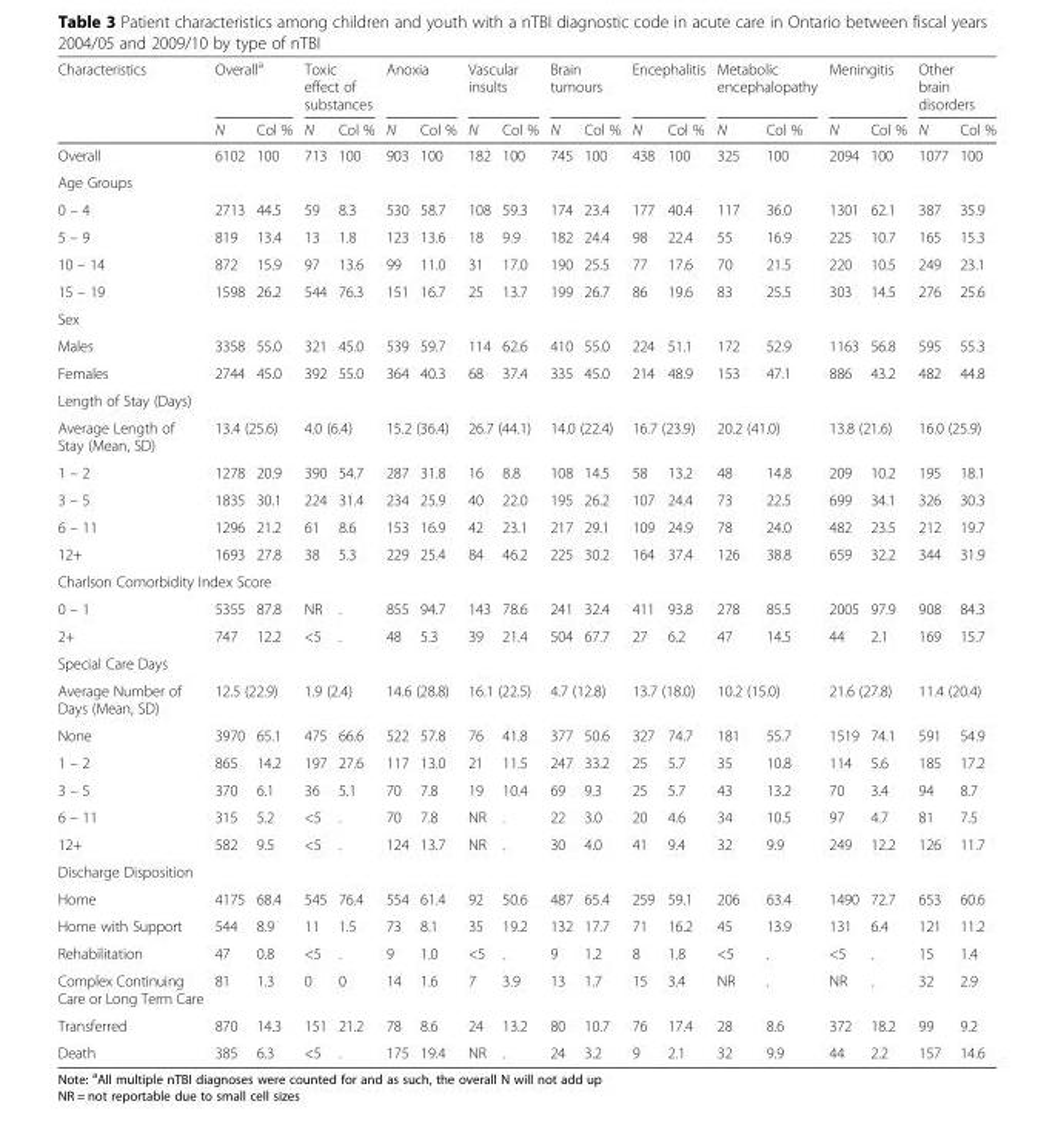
<table><thead><tr><td rowspan="2">Characteristics</td><td colspan="2">Overall<sup>a</sup></td><td colspan="2">Toxic effect of substances</td><td colspan="2">Anoxia</td><td colspan="2">Vascular insults</td><td colspan="2">Brain tumours</td><td colspan="2">Encephalitis</td><td colspan="2">Metabolic encephalopathy</td><td colspan="2">Meningitis</td><td colspan="2">Other brain disorders</td></tr><tr><td>N</td><td>Col %</td><td>N</td><td>Col %</td><td>N</td><td>Col %</td><td>N</td><td>Col %</td><td>N</td><td>Col %</td><td>N</td><td>Col %</td><td>N</td><td>Col %</td><td>N</td><td>Col %</td><td>N</td><td>Col %</td></tr></thead><tbody><tr><td>Overall</td><td>6102</td><td>100</td><td>713</td><td>100</td><td>903</td><td>100</td><td>182</td><td>100</td><td>745</td><td>100</td><td>438</td><td>100</td><td>325</td><td>100</td><td>2094</td><td>100</td><td>1077</td><td>100</td></tr><tr><td colspan="19">Age Groups</td></tr><tr><td>0 – 4</td><td>2713</td><td>44.5</td><td>59</td><td>8.3</td><td>530</td><td>58.7</td><td>108</td><td>59.3</td><td>174</td><td>23.4</td><td>177</td><td>40.4</td><td>117</td><td>36.0</td><td>1301</td><td>62.1</td><td>387</td><td>35.9</td></tr><tr><td>5 – 9</td><td>819</td><td>13.4</td><td>13</td><td>1.8</td><td>123</td><td>13.6</td><td>18</td><td>9.9</td><td>182</td><td>24.4</td><td>98</td><td>22.4</td><td>55</td><td>16.9</td><td>225</td><td>10.7</td><td>165</td><td>15.3</td></tr><tr><td>10 – 14</td><td>872</td><td>15.9</td><td>97</td><td>13.6</td><td>99</td><td>11.0</td><td>31</td><td>17.0</td><td>190</td><td>25.5</td><td>77</td><td>17.6</td><td>70</td><td>21.5</td><td>220</td><td>10.5</td><td>249</td><td>23.1</td></tr><tr><td>15 – 19</td><td>1598</td><td>26.2</td><td>544</td><td>76.3</td><td>151</td><td>16.7</td><td>25</td><td>13.7</td><td>199</td><td>26.7</td><td>86</td><td>19.6</td><td>83</td><td>25.5</td><td>303</td><td>14.5</td><td>276</td><td>25.6</td></tr><tr><td colspan="19">Sex</td></tr><tr><td>Males</td><td>3358</td><td>55.0</td><td>321</td><td>45.0</td><td>539</td><td>59.7</td><td>114</td><td>62.6</td><td>410</td><td>55.0</td><td>224</td><td>51.1</td><td>172</td><td>52.9</td><td>1163</td><td>56.8</td><td>595</td><td>55.3</td></tr><tr><td>Females</td><td>2744</td><td>45.0</td><td>392</td><td>55.0</td><td>364</td><td>40.3</td><td>68</td><td>37.4</td><td>335</td><td>45.0</td><td>214</td><td>48.9</td><td>153</td><td>47.1</td><td>886</td><td>43.2</td><td>482</td><td>44.8</td></tr><tr><td colspan="19">Length of Stay (Days)</td></tr><tr><td>Average Length of Stay (Mean, SD)</td><td colspan="2">13.4 (25.6)</td><td colspan="2">4.0 (6.4)</td><td colspan="2">15.2 (36.4)</td><td colspan="2">26.7 (44.1)</td><td colspan="2">14.0 (22.4)</td><td colspan="2">16.7 (23.9)</td><td colspan="2">20.2 (41.0)</td><td colspan="2">13.8 (21.6)</td><td colspan="2">16.0 (25.9)</td></tr><tr><td>1 – 2</td><td>1278</td><td>20.9</td><td>390</td><td>54.7</td><td>287</td><td>31.8</td><td>16</td><td>8.8</td><td>108</td><td>14.5</td><td>58</td><td>13.2</td><td>48</td><td>14.8</td><td>209</td><td>10.2</td><td>195</td><td>18.1</td></tr><tr><td>3 – 5</td><td>1835</td><td>30.1</td><td>224</td><td>31.4</td><td>234</td><td>25.9</td><td>40</td><td>22.0</td><td>195</td><td>26.2</td><td>107</td><td>24.4</td><td>73</td><td>22.5</td><td>699</td><td>34.1</td><td>326</td><td>30.3</td></tr><tr><td>6 – 11</td><td>1296</td><td>21.2</td><td>61</td><td>8.6</td><td>153</td><td>16.9</td><td>42</td><td>23.1</td><td>217</td><td>29.1</td><td>109</td><td>24.9</td><td>78</td><td>24.0</td><td>482</td><td>23.5</td><td>212</td><td>19.7</td></tr><tr><td>12+</td><td>1693</td><td>27.8</td><td>38</td><td>5.3</td><td>229</td><td>25.4</td><td>84</td><td>46.2</td><td>225</td><td>30.2</td><td>164</td><td>37.4</td><td>126</td><td>38.8</td><td>659</td><td>32.2</td><td>344</td><td>31.9</td></tr><tr><td colspan="19">Charlson Comorbidity Index Score</td></tr><tr><td>0 – 1</td><td>5355</td><td>87.8</td><td>NR</td><td>.</td><td>855</td><td>94.7</td><td>143</td><td>78.6</td><td>241</td><td>32.4</td><td>411</td><td>93.8</td><td>278</td><td>85.5</td><td>2005</td><td>97.9</td><td>908</td><td>84.3</td></tr><tr><td>2+</td><td>747</td><td>12.2</td><td>&lt;5</td><td>.</td><td>48</td><td>5.3</td><td>39</td><td>21.4</td><td>504</td><td>67.7</td><td>27</td><td>6.2</td><td>47</td><td>14.5</td><td>44</td><td>2.1</td><td>169</td><td>15.7</td></tr><tr><td colspan="19">Special Care Days</td></tr><tr><td>Average Number of Days (Mean, SD)</td><td colspan="2">12.5 (22.9)</td><td colspan="2">1.9 (2.4)</td><td colspan="2">14.6 (28.8)</td><td colspan="2">16.1 (22.5)</td><td colspan="2">4.7 (12.8)</td><td colspan="2">13.7 (18.0)</td><td colspan="2">10.2 (15.0)</td><td colspan="2">21.6 (27.8)</td><td colspan="2">11.4 (20.4)</td></tr><tr><td>None</td><td>3970</td><td>65.1</td><td>475</td><td>66.6</td><td>522</td><td>57.8</td><td>76</td><td>41.8</td><td>377</td><td>50.6</td><td>327</td><td>74.7</td><td>181</td><td>55.7</td><td>1519</td><td>74.1</td><td>591</td><td>54.9</td></tr><tr><td>1 – 2</td><td>865</td><td>14.2</td><td>197</td><td>27.6</td><td>117</td><td>13.0</td><td>21</td><td>11.5</td><td>247</td><td>33.2</td><td>25</td><td>5.7</td><td>35</td><td>10.8</td><td>114</td><td>5.6</td><td>185</td><td>17.2</td></tr><tr><td>3 – 5</td><td>370</td><td>6.1</td><td>36</td><td>5.1</td><td>70</td><td>7.8</td><td>19</td><td>10.4</td><td>69</td><td>9.3</td><td>25</td><td>5.7</td><td>43</td><td>13.2</td><td>70</td><td>3.4</td><td>94</td><td>8.7</td></tr><tr><td>6 – 11</td><td>315</td><td>5.2</td><td>&lt;5</td><td>.</td><td>70</td><td>7.8</td><td>NR</td><td>.</td><td>22</td><td>3.0</td><td>20</td><td>4.6</td><td>34</td><td>10.5</td><td>97</td><td>4.7</td><td>81</td><td>7.5</td></tr><tr><td>12+</td><td>582</td><td>9.5</td><td>&lt;5</td><td>.</td><td>124</td><td>13.7</td><td>NR</td><td>.</td><td>30</td><td>4.0</td><td>41</td><td>9.4</td><td>32</td><td>9.9</td><td>249</td><td>12.2</td><td>126</td><td>11.7</td></tr><tr><td colspan="19">Discharge Disposition</td></tr><tr><td>Home</td><td>4175</td><td>68.4</td><td>545</td><td>76.4</td><td>554</td><td>61.4</td><td>92</td><td>50.6</td><td>487</td><td>65.4</td><td>259</td><td>59.1</td><td>206</td><td>63.4</td><td>1490</td><td>72.7</td><td>653</td><td>60.6</td></tr><tr><td>Home with Support</td><td>544</td><td>8.9</td><td>11</td><td>1.5</td><td>73</td><td>8.1</td><td>35</td><td>19.2</td><td>132</td><td>17.7</td><td>71</td><td>16.2</td><td>45</td><td>13.9</td><td>131</td><td>6.4</td><td>121</td><td>11.2</td></tr><tr><td>Rehabilitation</td><td>47</td><td>0.8</td><td>&lt;5</td><td>.</td><td>9</td><td>1.0</td><td>&lt;5</td><td>.</td><td>9</td><td>1.2</td><td>8</td><td>1.8</td><td>&lt;5</td><td>.</td><td>&lt;5</td><td>.</td><td>15</td><td>1.4</td></tr><tr><td>Complex Continuing Care or Long Term Care</td><td>81</td><td>1.3</td><td>0</td><td>0</td><td>14</td><td>1.6</td><td>7</td><td>3.9</td><td>13</td><td>1.7</td><td>15</td><td>3.4</td><td>NR</td><td>.</td><td>NR</td><td>.</td><td>32</td><td>2.9</td></tr><tr><td>Transferred</td><td>870</td><td>14.3</td><td>151</td><td>21.2</td><td>78</td><td>8.6</td><td>24</td><td>13.2</td><td>80</td><td>10.7</td><td>76</td><td>17.4</td><td>28</td><td>8.6</td><td>372</td><td>18.2</td><td>99</td><td>9.2</td></tr><tr><td>Death</td><td>385</td><td>6.3</td><td>&lt;5</td><td>.</td><td>175</td><td>19.4</td><td>NR</td><td>.</td><td>24</td><td>3.2</td><td>9</td><td>2.1</td><td>32</td><td>9.9</td><td>44</td><td>2.2</td><td>157</td><td>14.6</td></tr></tbody></table>